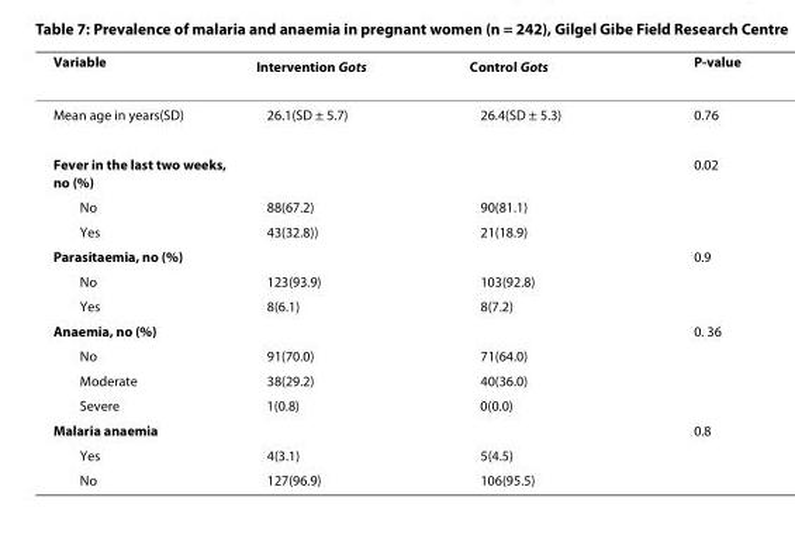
<table><thead><tr><td>Variable</td><td>Intervention Gots</td><td>Control Gots</td><td>P-value</td></tr></thead><tbody><tr><td>Mean age in years(SD)</td><td>26.1(SD ± 5.7)</td><td>26.4(SD ± 5.3)</td><td>0.76</td></tr><tr><td>Fever in the last two weeks, no (%)</td><td></td><td></td><td>0.02</td></tr><tr><td>No</td><td>88(67.2)</td><td>90(81.1)</td><td></td></tr><tr><td>Yes</td><td>43(32.8))</td><td>21(18.9)</td><td></td></tr><tr><td>Parasitaemia, no (%)</td><td></td><td></td><td>0.9</td></tr><tr><td>No</td><td>123(93.9)</td><td>103(92.8)</td><td></td></tr><tr><td>Yes</td><td>8(6.1)</td><td>8(7.2)</td><td></td></tr><tr><td>Anaemia, no (%)</td><td></td><td></td><td>0. 36</td></tr><tr><td>No</td><td>91(70.0)</td><td>71(64.0)</td><td></td></tr><tr><td>Moderate</td><td>38(29.2)</td><td>40(36.0)</td><td></td></tr><tr><td>Severe</td><td>1(0.8)</td><td>0(0.0)</td><td></td></tr><tr><td>Malaria anaemia</td><td></td><td></td><td>0.8</td></tr><tr><td>Yes</td><td>4(3.1)</td><td>5(4.5)</td><td></td></tr><tr><td>No</td><td>127(96.9)</td><td>106(95.5)</td><td></td></tr></tbody></table>